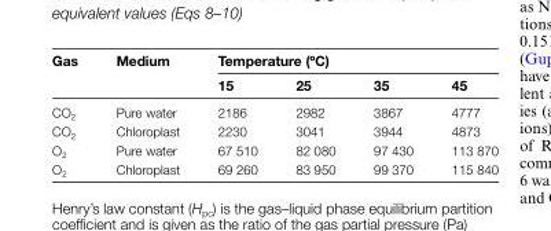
<table><thead><tr><td rowspan="2">Gas</td><td rowspan="2">Medium</td><td colspan="4">Temperature (ºC)</td></tr><tr><td>15</td><td>25</td><td>35</td><td>45</td></tr></thead><tbody><tr><td>CO<sub>2</sub></td><td>Pure water</td><td>2186</td><td>2982</td><td>3867</td><td>4777</td></tr><tr><td>CO<sub>2</sub></td><td>Chloroplast</td><td>2230</td><td>3041</td><td>3944</td><td>4873</td></tr><tr><td>O<sub>2</sub></td><td>Pure water</td><td>67 510</td><td>82 080</td><td>97 430</td><td>113 870</td></tr><tr><td>O<sub>2</sub></td><td>Chloroplast</td><td>69 260</td><td>83 950</td><td>99 370</td><td>115 840</td></tr></tbody></table>